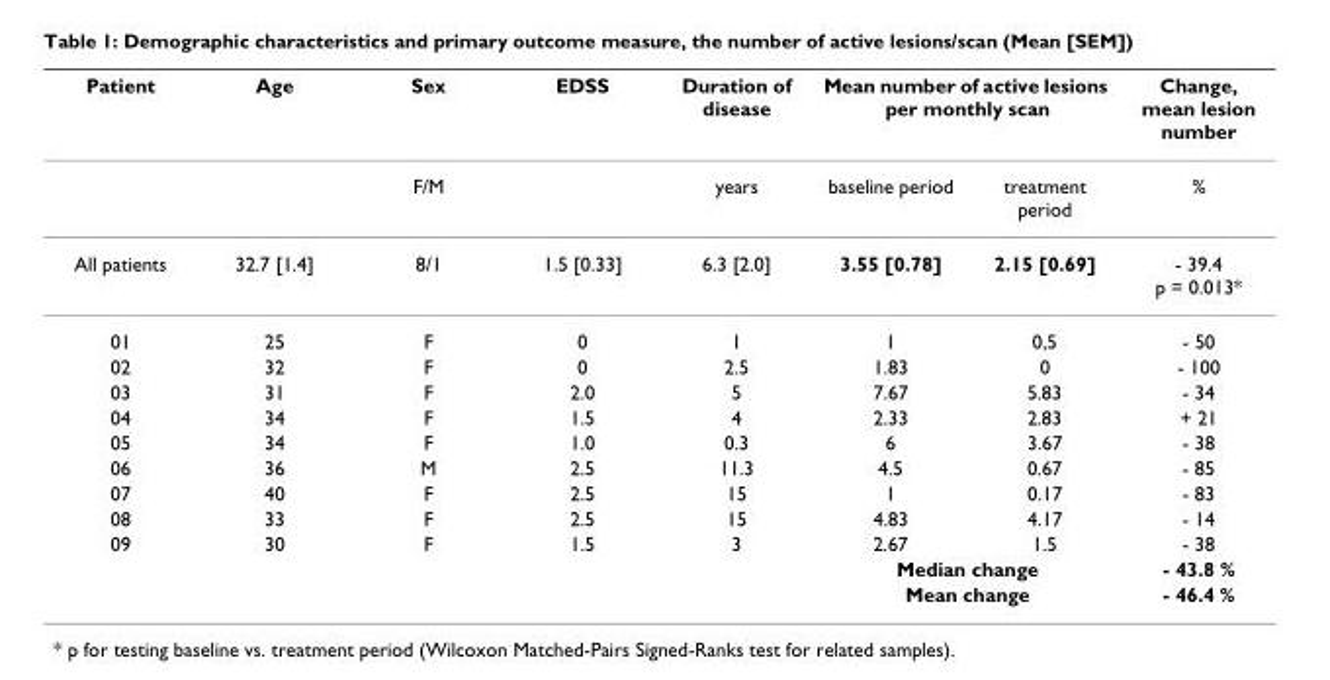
<table><thead><tr><td rowspan="2">Patient</td><td rowspan="2">Age</td><td rowspan="2">Sex F/M</td><td rowspan="2">EDSS</td><td rowspan="2">Duration of disease years</td><td colspan="2">Mean number of active lesions per monthly scan</td><td rowspan="2">Change, mean lesion number %</td></tr><tr><td>baseline period</td><td>treatment period</td></tr></thead><tbody><tr><td>All patients</td><td>32.7 [1.4]</td><td>8/1</td><td>1.5 [0.33]</td><td>6.3 [2.0]</td><td>3.55 [0.78]</td><td>2.15 [0.69]</td><td>- 39.4 p = 0.013*</td></tr><tr><td>01</td><td>25</td><td>F</td><td>0</td><td>1</td><td>1</td><td>0,5</td><td>- 50</td></tr><tr><td>02</td><td>32</td><td>F</td><td>0</td><td>2.5</td><td>1.83</td><td>0</td><td>- 100</td></tr><tr><td>03</td><td>31</td><td>F</td><td>2.0</td><td>5</td><td>7.67</td><td>5.83</td><td>- 34</td></tr><tr><td>04</td><td>34</td><td>F</td><td>1.5</td><td>4</td><td>2.33</td><td>2.83</td><td>+ 21</td></tr><tr><td>05</td><td>34</td><td>F</td><td>1.0</td><td>0.3</td><td>6</td><td>3.67</td><td>- 38</td></tr><tr><td>06</td><td>36</td><td>M</td><td>2.5</td><td>11.3</td><td>4.5</td><td>0.67</td><td>- 85</td></tr><tr><td>07</td><td>40</td><td>F</td><td>2.5</td><td>15</td><td>1</td><td>0.17</td><td>- 83</td></tr><tr><td>08</td><td>33</td><td>F</td><td>2.5</td><td>15</td><td>4.83</td><td>4.17</td><td>- 14</td></tr><tr><td rowspan="3">09</td><td>30</td><td>F</td><td>1.5</td><td>3</td><td>2.67</td><td>1.5</td><td>- 38</td></tr><tr><td></td><td></td><td></td><td></td><td colspan="2">Median change</td><td>- 43.8 %</td></tr><tr><td></td><td></td><td></td><td></td><td colspan="2">Mean change</td><td>- 46.4 %</td></tr></tbody></table>